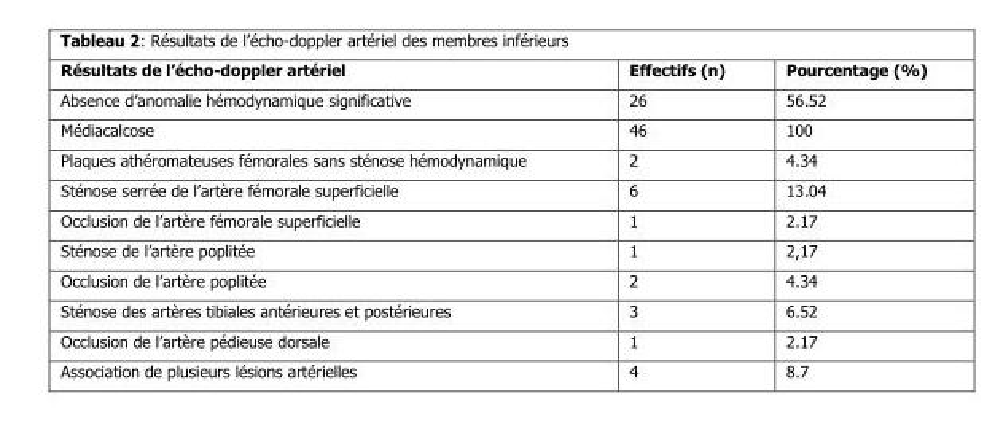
<table><thead><tr><td>Résultats de l’écho-doppler artériel</td><td>Effectifs (n)</td><td>Pourcentage (%)</td></tr></thead><tbody><tr><td>Absence d’anomalie hémodynamique significative</td><td>26</td><td>56.52</td></tr><tr><td>Médiacalcose</td><td>46</td><td>100</td></tr><tr><td>Plaques athéromateuses fémorales sans sténose hémodynamique</td><td>2</td><td>4.34</td></tr><tr><td>Sténose serrée de l’artère fémorale superficielle</td><td>6</td><td>13.04</td></tr><tr><td>Occlusion de l’artère fémorale superficielle</td><td>1</td><td>2.17</td></tr><tr><td>Sténose de l’artère poplitée</td><td>1</td><td>2,17</td></tr><tr><td>Occlusion de l’artère poplitée</td><td>2</td><td>4.34</td></tr><tr><td>Sténose des artères tibiales antérieures et postérieures</td><td>3</td><td>6.52</td></tr><tr><td>Occlusion de l’artère pédieuse dorsale</td><td>1</td><td>2.17</td></tr><tr><td>Association de plusieurs lésions artérielles</td><td>4</td><td>8.7</td></tr></tbody></table>